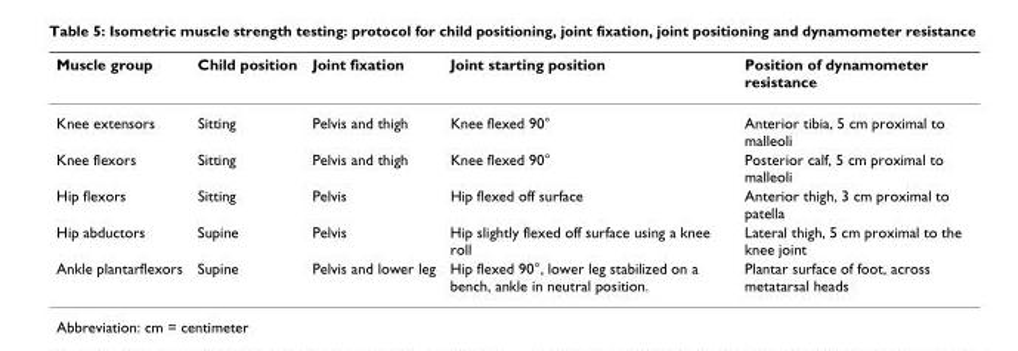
<table><thead><tr><td>Muscle group</td><td>Child position</td><td>Joint fixation</td><td>Joint starting position</td><td>Position of dynamometer resistance</td></tr></thead><tbody><tr><td>Knee extensors</td><td>Sitting</td><td>Pelvis and thigh</td><td>Knee flexed 90°</td><td>Anterior tibia, 5 cm proximal to malleoli</td></tr><tr><td>Knee flexors</td><td>Sitting</td><td>Pelvis and thigh</td><td>Knee flexed 90°</td><td>Posterior calf, 5 cm proximal to malleoli</td></tr><tr><td>Hip flexors</td><td>Sitting</td><td>Pelvis</td><td>Hip flexed off surface</td><td>Anterior thigh, 3 cm proximal to patella</td></tr><tr><td>Hip abductors</td><td>Supine</td><td>Pelvis</td><td>Hip slightly flexed off surface using a knee roll</td><td>Lateral thigh, 5 cm proximal to the knee joint</td></tr><tr><td>Ankle plantarflexors</td><td>Supine</td><td>Pelvis and lower leg</td><td>Hip flexed 90°, lower leg stabilized on a bench, ankle in neutral position.</td><td>Plantar surface of foot, across metatarsal heads</td></tr></tbody></table>